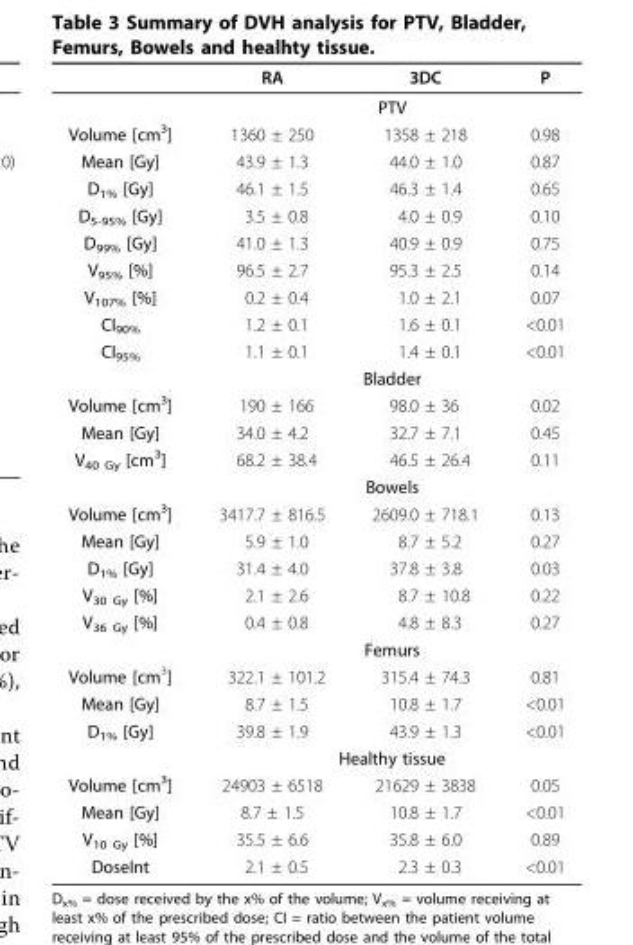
<table><thead><tr><td></td><td>RA</td><td>3DC</td><td>P</td></tr></thead><tbody><tr><td></td><td colspan="3">PTV</td></tr><tr><td>Volume [cm<sup>3</sup>]</td><td>1360 ± 250</td><td>1358 ± 218</td><td>0.98</td></tr><tr><td>Mean [Gy]</td><td>43.9 ± 1.3</td><td>44.0 ± 1.0</td><td>0.87</td></tr><tr><td>D<sub>1%</sub> [Gy]</td><td>46.1 ± 1.5</td><td>46.3 ± 1.4</td><td>0.65</td></tr><tr><td>D<sub>5-95%</sub> [Gy]</td><td>3.5 ± 0.8</td><td>4.0 ± 0.9</td><td>0.10</td></tr><tr><td>D<sub>99%</sub> [Gy]</td><td>41.0 ± 1.3</td><td>40.9 ± 0.9</td><td>0.75</td></tr><tr><td>V<sub>95%</sub> [%]</td><td>96.5 ± 2.7</td><td>95.3 ± 2.5</td><td>0.14</td></tr><tr><td>V<sub>107%</sub> [%]</td><td>0.2 ± 0.4</td><td>1.0 ± 2.1</td><td>0.07</td></tr><tr><td>CI<sub>90%</sub></td><td>1.2 ± 0.1</td><td>1.6 ± 0.1</td><td>&lt;0.01</td></tr><tr><td rowspan="2">CI<sub>95%</sub></td><td>1.1 ± 0.1</td><td>1.4 ± 0.1</td><td>&lt;0.01</td></tr><tr><td colspan="3">Bladder</td></tr><tr><td>Volume [cm<sup>3</sup>]</td><td>190 ± 166</td><td>98.0 ± 36</td><td>0.02</td></tr><tr><td>Mean [Gy]</td><td>34.0 ± 4.2</td><td>32.7 ± 7.1</td><td>0.45</td></tr><tr><td rowspan="2">V<sub>40 Gy</sub> [cm<sup>3</sup>]</td><td>68.2 ± 38.4</td><td>46.5 ± 26.4</td><td>0.11</td></tr><tr><td colspan="3">Bowels</td></tr><tr><td>Volume [cm<sup>3</sup>]</td><td>3417.7 ± 816.5</td><td>2609.0 ± 718.1</td><td>0.13</td></tr><tr><td>Mean [Gy]</td><td>5.9 ± 1.0</td><td>8.7 ± 5.2</td><td>0.27</td></tr><tr><td>D<sub>1%</sub> [Gy]</td><td>31.4 ± 4.0</td><td>37.8 ± 3.8</td><td>0.03</td></tr><tr><td>V<sub>30 Gy</sub> [%]</td><td>2.1 ± 2.6</td><td>8.7 ± 10.8</td><td>0.22</td></tr><tr><td rowspan="2">V<sub>36 Gy</sub> [%]</td><td>0.4 ± 0.8</td><td>4.8 ± 8.3</td><td>0.27</td></tr><tr><td colspan="3">Femurs</td></tr><tr><td>Volume [cm<sup>3</sup>]</td><td>322.1 ± 101.2</td><td>315.4 ± 74.3</td><td>0.81</td></tr><tr><td>Mean [Gy]</td><td>8.7 ± 1.5</td><td>10.8 ± 1.7</td><td>&lt;0.01</td></tr><tr><td rowspan="2">D<sub>1%</sub> [Gy]</td><td>39.8 ± 1.9</td><td>43.9 ± 1.3</td><td>&lt;0.01</td></tr><tr><td colspan="3">Healthy tissue</td></tr><tr><td>Volume [cm<sup>3</sup>]</td><td>24903 ± 6518</td><td>21629 ± 3838</td><td>0.05</td></tr><tr><td>Mean [Gy]</td><td>8.7 ± 1.5</td><td>10.8 ± 1.7</td><td>&lt;0.01</td></tr><tr><td>V<sub>10 Gy</sub> [%]</td><td>35.5 ± 6.6</td><td>35.8 ± 6.0</td><td>0.89</td></tr><tr><td>DoseInt</td><td>2.1 ± 0.5</td><td>2.3 ± 0.3</td><td>&lt;0.01</td></tr></tbody></table>